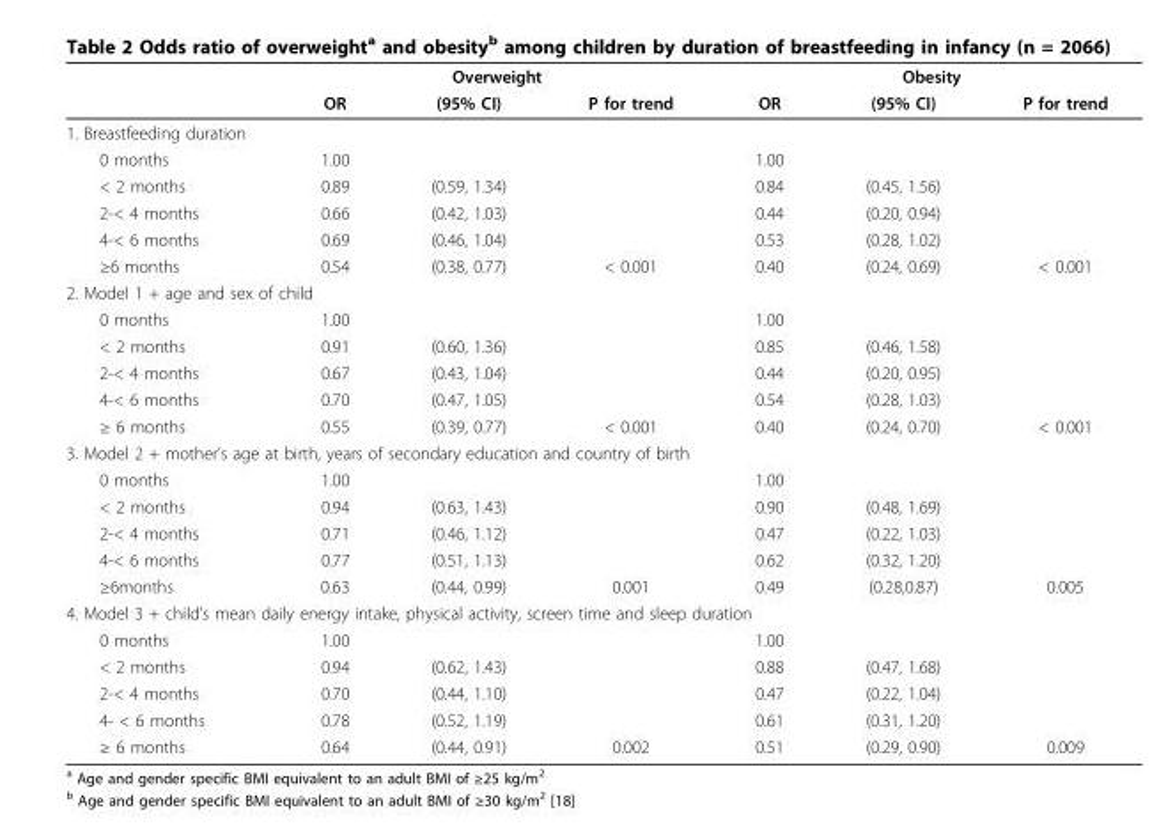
<table><thead><tr><td rowspan="2"></td><td colspan="3">Overweight</td><td colspan="3">Obesity</td></tr><tr><td>OR</td><td>(95% CI)</td><td>P for trend</td><td>OR</td><td>(95% CI)</td><td>P for trend</td></tr></thead><tbody><tr><td colspan="7">1. Breastfeeding duration</td></tr><tr><td>0 months</td><td>1.00</td><td></td><td></td><td>1.00</td><td></td><td></td></tr><tr><td>&lt; 2 months</td><td>0.89</td><td>(0.59, 1.34)</td><td></td><td>0.84</td><td>(0.45, 1.56)</td><td></td></tr><tr><td>2-&lt; 4 months</td><td>0.66</td><td>(0.42, 1.03)</td><td></td><td>0.44</td><td>(0.20, 0.94)</td><td></td></tr><tr><td>4-&lt; 6 months</td><td>0.69</td><td>(0.46, 1.04)</td><td></td><td>0.53</td><td>(0.28, 1.02)</td><td></td></tr><tr><td>≥6 months</td><td>0.54</td><td>(0.38, 0.77)</td><td>&lt; 0.001</td><td>0.40</td><td>(0.24, 0.69)</td><td>&lt; 0.001</td></tr><tr><td colspan="7">2. Model 1 + age and sex of child</td></tr><tr><td>0 months</td><td>1.00</td><td></td><td></td><td>1.00</td><td></td><td></td></tr><tr><td>&lt; 2 months</td><td>0.91</td><td>(0.60, 1.36)</td><td></td><td>0.85</td><td>(0.46, 1.58)</td><td></td></tr><tr><td>2-&lt; 4 months</td><td>0.67</td><td>(0.43, 1.04)</td><td></td><td>0.44</td><td>(0.20, 0.95)</td><td></td></tr><tr><td>4-&lt; 6 months</td><td>0.70</td><td>(0.47, 1.05)</td><td></td><td>0.54</td><td>(0.28, 1.03)</td><td></td></tr><tr><td>≥ 6 months</td><td>0.55</td><td>(0.39, 0.77)</td><td>&lt; 0.001</td><td>0.40</td><td>(0.24, 0.70)</td><td>&lt; 0.001</td></tr><tr><td colspan="7">3. Model 2 + mother’s age at birth, years of secondary education and country of birth</td></tr><tr><td>0 months</td><td>1.00</td><td></td><td></td><td>1.00</td><td></td><td></td></tr><tr><td>&lt; 2 months</td><td>0.94</td><td>(0.63, 1.43)</td><td></td><td>0.90</td><td>(0.48, 1.69)</td><td></td></tr><tr><td>2-&lt; 4 months</td><td>0.71</td><td>(0.46, 1.12)</td><td></td><td>0.47</td><td>(0.22, 1.03)</td><td></td></tr><tr><td>4-&lt; 6 months</td><td>0.77</td><td>(0.51, 1.13)</td><td></td><td>0.62</td><td>(0.32, 1.20)</td><td></td></tr><tr><td>≥6months</td><td>0.63</td><td>(0.44, 0.99)</td><td>0.001</td><td>0.49</td><td>(0.28,0.87)</td><td>0.005</td></tr><tr><td colspan="7">4. Model 3 + child’s mean daily energy intake, physical activity, screen time and sleep duration</td></tr><tr><td>0 months</td><td>1.00</td><td></td><td></td><td>1.00</td><td></td><td></td></tr><tr><td>&lt; 2 months</td><td>0.94</td><td>(0.62, 1.43)</td><td></td><td>0.88</td><td>(0.47, 1.68)</td><td></td></tr><tr><td>2-&lt; 4 months</td><td>0.70</td><td>(0.44, 1.10)</td><td></td><td>0.47</td><td>(0.22, 1.04)</td><td></td></tr><tr><td>4- &lt; 6 months</td><td>0.78</td><td>(0.52, 1.19)</td><td></td><td>0.61</td><td>(0.31, 1.20)</td><td></td></tr><tr><td>≥ 6 months</td><td>0.64</td><td>(0.44, 0.91)</td><td>0.002</td><td>0.51</td><td>(0.29, 0.90)</td><td>0.009</td></tr></tbody></table>